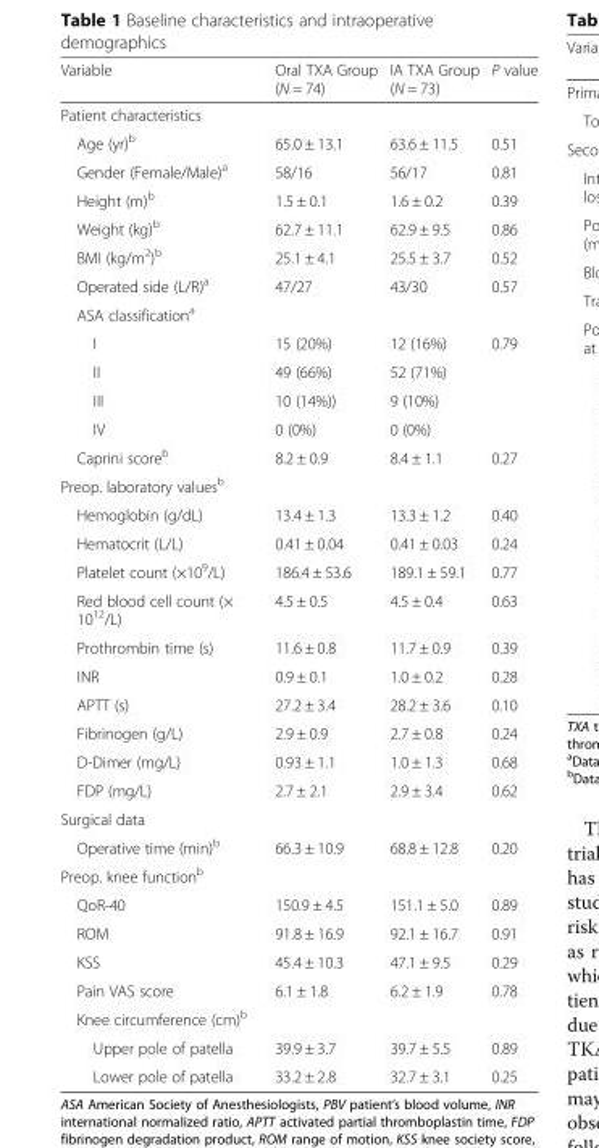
<table><thead><tr><td>Variable</td><td>Oral TXA Group (N = 74)</td><td>IA TXA Group (N = 73)</td><td>P value</td></tr></thead><tbody><tr><td colspan="4">Patient characteristics</td></tr><tr><td>Age (yr)<sup>b</sup></td><td>65.0 ± 13.1</td><td>63.6 ± 11.5</td><td>0.51</td></tr><tr><td>Gender (Female/Male)<sup>a</sup></td><td>58/16</td><td>56/17</td><td>0.81</td></tr><tr><td>Height (m)<sup>b</sup></td><td>1.5 ± 0.1</td><td>1.6 ± 0.2</td><td>0.39</td></tr><tr><td>Weight (kg)<sup>b</sup></td><td>62.7 ± 11.1</td><td>62.9 ± 9.5</td><td>0.86</td></tr><tr><td>BMI (kg/m<sup>2</sup>)<sup>b</sup></td><td>25.1 ± 4.1</td><td>25.5 ± 3.7</td><td>0.52</td></tr><tr><td>Operated side (L/R)<sup>a</sup></td><td>47/27</td><td>43/30</td><td>0.57</td></tr><tr><td colspan="4">ASA classification<sup>a</sup></td></tr><tr><td>I</td><td>15 (20%)</td><td>12 (16%)</td><td>0.79</td></tr><tr><td>II</td><td>49 (66%)</td><td>52 (71%)</td><td></td></tr><tr><td>III</td><td>10 (14%))</td><td>9 (10%)</td><td></td></tr><tr><td>IV</td><td>0 (0%)</td><td>0 (0%)</td><td></td></tr><tr><td>Caprini score<sup>b</sup></td><td>8.2 ± 0.9</td><td>8.4 ± 1.1</td><td>0.27</td></tr><tr><td colspan="4">Preop. laboratory values<sup>b</sup></td></tr><tr><td>Hemoglobin (g/dL)</td><td>13.4 ± 1.3</td><td>13.3 ± 1.2</td><td>0.40</td></tr><tr><td>Hematocrit (L/L)</td><td>0.41 ± 0.04</td><td>0.41 ± 0.03</td><td>0.24</td></tr><tr><td>Platelet count (×10<sup>9</sup>/L)</td><td>186.4 ± 53.6</td><td>189.1 ± 59.1</td><td>0.77</td></tr><tr><td>Red blood cell count (× 10<sup>12</sup>/L)</td><td>4.5 ± 0.5</td><td>4.5 ± 0.4</td><td>0.63</td></tr><tr><td>Prothrombin time (s)</td><td>11.6 ± 0.8</td><td>11.7 ± 0.9</td><td>0.39</td></tr><tr><td>INR</td><td>0.9 ± 0.1</td><td>1.0 ± 0.2</td><td>0.28</td></tr><tr><td>APTT (s)</td><td>27.2 ± 3.4</td><td>28.2 ± 3.6</td><td>0.10</td></tr><tr><td>Fibrinogen (g/L)</td><td>2.9 ± 0.9</td><td>2.7 ± 0.8</td><td>0.24</td></tr><tr><td>D-Dimer (mg/L)</td><td>0.93 ± 1.1</td><td>1.0 ± 1.3</td><td>0.68</td></tr><tr><td>FDP (mg/L)</td><td>2.7 ± 2.1</td><td>2.9 ± 3.4</td><td>0.62</td></tr><tr><td colspan="4">Surgical data</td></tr><tr><td>Operative time (min)<sup>b</sup></td><td>66.3 ± 10.9</td><td>68.8 ± 12.8</td><td>0.20</td></tr><tr><td colspan="4">Preop. knee function<sup>b</sup></td></tr><tr><td>QoR-40</td><td>150.9 ± 4.5</td><td>151.1 ± 5.0</td><td>0.89</td></tr><tr><td>ROM</td><td>91.8 ± 16.9</td><td>92.1 ± 16.7</td><td>0.91</td></tr><tr><td>KSS</td><td>45.4 ± 10.3</td><td>47.1 ± 9.5</td><td>0.29</td></tr><tr><td>Pain VAS score</td><td>6.1 ± 1.8</td><td>6.2 ± 1.9</td><td>0.78</td></tr><tr><td colspan="4">Knee circumference (cm)<sup>b</sup></td></tr><tr><td>Upper pole of patella</td><td>39.9 ± 3.7</td><td>39.7 ± 5.5</td><td>0.89</td></tr><tr><td>Lower pole of patella</td><td>33.2 ± 2.8</td><td>32.7 ± 3.1</td><td>0.25</td></tr></tbody></table>